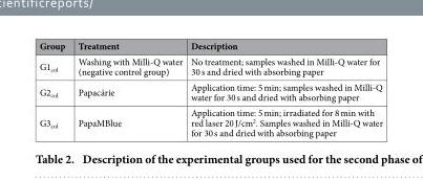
<table><thead><tr><td>Group</td><td>Treatment</td><td>Description</td></tr></thead><tbody><tr><td>G1<sub>col</sub></td><td>Washing with Milli-Q water (negative control group)</td><td>No treatment; samples washed in Milli-Q water for 30 s and dried with absorbing paper</td></tr><tr><td>G2<sub>col</sub></td><td>Papacárie</td><td>Application time: 5 min; samples washed in Milli-Q water for 30 s and dried with absorbing paper</td></tr><tr><td>G3<sub>col</sub></td><td>PapaMBlue</td><td>Application time: 5 min; irradiated for 8 min with red laser 20 J/cm<sup>2</sup>. Samples washed in Milli-Q water for 30 s and dried with absorbing paper</td></tr></tbody></table>